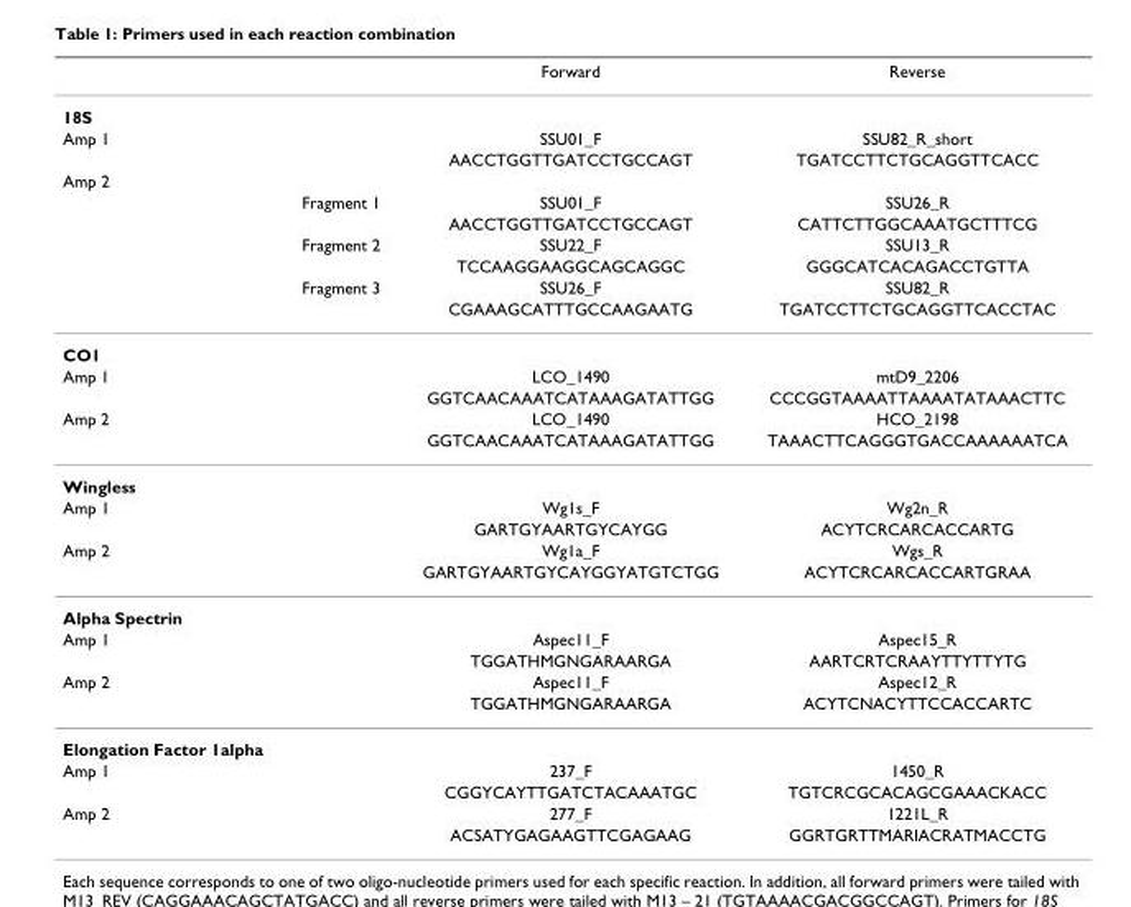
<table><thead><tr><td></td><td></td><td>Forward</td><td>Reverse</td></tr></thead><tbody><tr><td colspan="4">18S</td></tr><tr><td rowspan="2">Amp 1</td><td></td><td>SSU01_F</td><td>SSU82_R_short</td></tr><tr><td></td><td>AACCTGGTTGATCCTGCCAGT</td><td>TGATCCTTCTGCAGGTTCACC</td></tr><tr><td colspan="4">Amp 2</td></tr><tr><td></td><td>Fragment 1</td><td>SSU01_F</td><td>SSU26_R</td></tr><tr><td></td><td></td><td>AACCTGGTTGATCCTGCCAGT</td><td>CATTCTTGGCAAATGCTTTCG</td></tr><tr><td></td><td>Fragment 2</td><td>SSU22_F</td><td>SSU13_R</td></tr><tr><td></td><td></td><td>TCCAAGGAAGGCAGCAGGC</td><td>GGGCATCACAGACCTGTTA</td></tr><tr><td></td><td>Fragment 3</td><td>SSU26_F</td><td>SSU82_R</td></tr><tr><td></td><td></td><td>CGAAAGCATTTGCCAAGAATG</td><td>TGATCCTTCTGCAGGTTCACCTAC</td></tr><tr><td colspan="4">CO1</td></tr><tr><td rowspan="2">Amp 1</td><td></td><td>LCO_1490</td><td>mtD9_2206</td></tr><tr><td></td><td>GGTCAACAAATCATAAAGATATTGG</td><td>CCCGGTAAAATTAAAATATAAACTTC</td></tr><tr><td rowspan="2">Amp 2</td><td></td><td>LCO_1490</td><td>HCO_2198</td></tr><tr><td></td><td>GGTCAACAAATCATAAAGATATTGG</td><td>TAAACTTCAGGGTGACCAAAAAATCA</td></tr><tr><td colspan="4">Wingless</td></tr><tr><td rowspan="2">Amp 1</td><td></td><td>Wg1s_F</td><td>Wg2n_R</td></tr><tr><td></td><td>GARTGYAARTGYCAYGG</td><td>ACYTCRCARCACCARTG</td></tr><tr><td rowspan="2">Amp 2</td><td></td><td>Wg1a_F</td><td>Wgs_R</td></tr><tr><td></td><td>GARTGYAARTGYCAYGGYATGTCTGG</td><td>ACYTCRCARCACCARTGRAA</td></tr><tr><td colspan="4">Alpha Spectrin</td></tr><tr><td rowspan="2">Amp 1</td><td></td><td>Aspec11_F</td><td>Aspec15_R</td></tr><tr><td></td><td>TGGATHMGNGARAARGA</td><td>AARTCRTCRAAYTTYTTYTG</td></tr><tr><td rowspan="2">Amp 2</td><td></td><td>Aspec11_F</td><td>Aspec12_R</td></tr><tr><td></td><td>TGGATHMGNGARAARGA</td><td>ACYTCNACYTTCCACCARTC</td></tr><tr><td colspan="4">Elongation Factor 1alpha</td></tr><tr><td rowspan="2">Amp 1</td><td></td><td>237_F</td><td>1450_R</td></tr><tr><td></td><td>CGGYCAYTTGATCTACAAATGC</td><td>TGTCRCGCACAGCGAAACKACC</td></tr><tr><td rowspan="2">Amp 2</td><td></td><td>277_F</td><td>1221L_R</td></tr><tr><td></td><td>ACSATYGAGAAGTTCGAGAAG</td><td>GGRTGRTTMARIACRATMACCTG</td></tr></tbody></table>